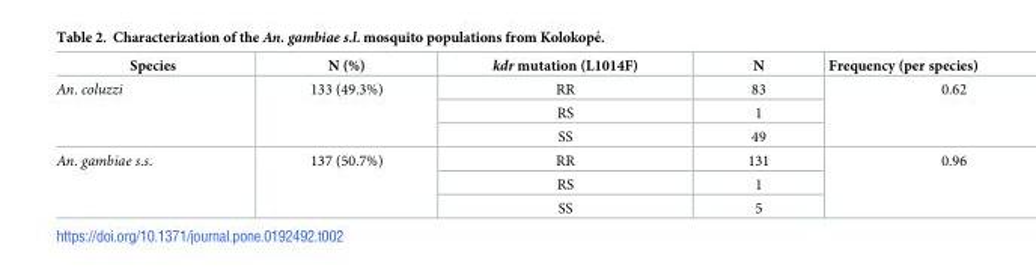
<table><thead><tr><td>Species</td><td>N (%)</td><td>kdr mutation (L1014F)</td><td>N</td><td>Frequency (per species)</td></tr></thead><tbody><tr><td rowspan="3">An. coluzzi</td><td rowspan="3">133 (49.3%)</td><td>RR</td><td>83</td><td rowspan="3">0.62</td></tr><tr><td>RS</td><td>1</td></tr><tr><td>SS</td><td>49</td></tr><tr><td rowspan="3">An. gambiae s.s.</td><td rowspan="3">137 (50.7%)</td><td>RR</td><td>131</td><td rowspan="3">0.96</td></tr><tr><td>RS</td><td>1</td></tr><tr><td>SS</td><td>5</td></tr></tbody></table>